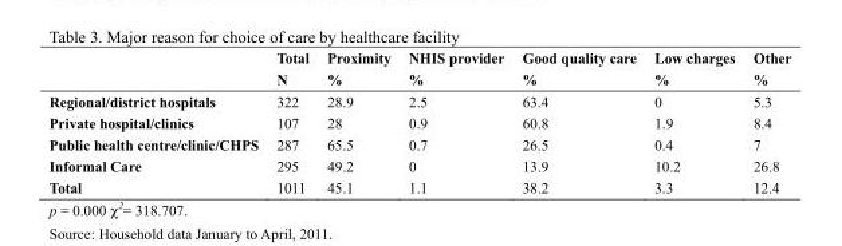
<table><thead><tr><td></td><td>Total N</td><td>Proximity %</td><td>NHIS provider %</td><td>Good quality care %</td><td>Low charges %</td><td>Other %</td></tr></thead><tbody><tr><td>Regional/district hospitals</td><td>322</td><td>28.9</td><td>2.5</td><td>63.4</td><td>0</td><td>5.3</td></tr><tr><td>Private hospital/clinics</td><td>107</td><td>28</td><td>0.9</td><td>60.8</td><td>1.9</td><td>8.4</td></tr><tr><td>Public health centre/clinic/CHPS</td><td>287</td><td>65.5</td><td>0.7</td><td>26.5</td><td>0.4</td><td>7</td></tr><tr><td>Informal Care</td><td>295</td><td>49.2</td><td>0</td><td>13.9</td><td>10.2</td><td>26.8</td></tr><tr><td>Total</td><td>1011</td><td>45.1</td><td>1.1</td><td>38.2</td><td>3.3</td><td>12.4</td></tr></tbody></table>